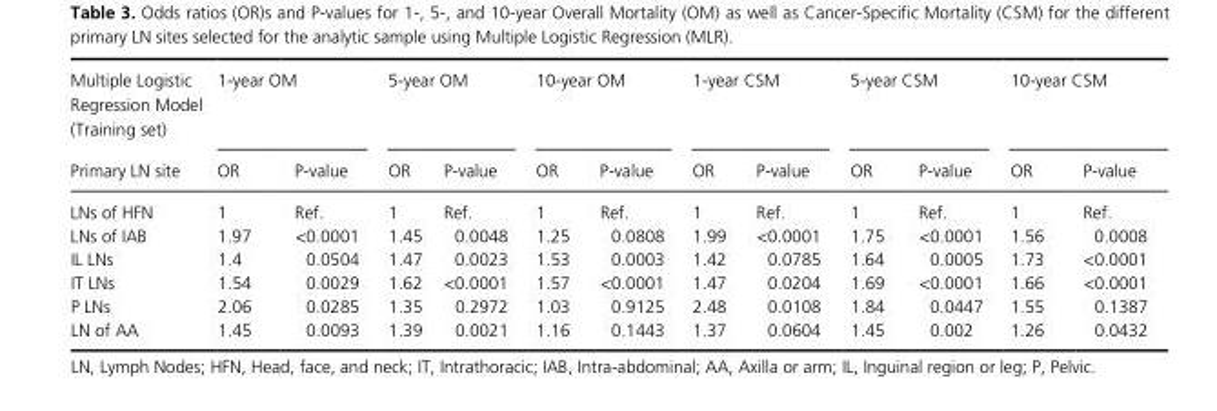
<table><thead><tr><td rowspan="2">Multiple Logistic Regression Model (Training set) Primary LN site</td><td colspan="2">1- year OM</td><td colspan="2">5- year OM</td><td colspan="2">10- year OM</td><td colspan="2">1- year CSM</td><td colspan="2">5- year CSM</td><td colspan="2">10- year CSM</td></tr><tr><td>OR</td><td>P- value</td><td>OR</td><td>P- value</td><td>OR</td><td>P- value</td><td>OR</td><td>P- value</td><td>OR</td><td>P- value</td><td>OR</td><td>P- value</td></tr></thead><tbody><tr><td>LNs of HFN</td><td>1</td><td>Ref.</td><td>1</td><td>Ref.</td><td>1</td><td>Ref.</td><td>1</td><td>Ref.</td><td>1</td><td>Ref.</td><td>1</td><td>Ref.</td></tr><tr><td>LNs of IAB</td><td>1.97</td><td>&lt;0.0001</td><td>1.45</td><td>0.0048</td><td>1.25</td><td>0.0808</td><td>1.99</td><td>&lt;0.0001</td><td>1.75</td><td>&lt;0.0001</td><td>1.56</td><td>0.0008</td></tr><tr><td>IL LNs</td><td>1.4</td><td>0.0504</td><td>1.47</td><td>0.0023</td><td>1.53</td><td>0.0003</td><td>1.42</td><td>0.0785</td><td>1.64</td><td>0.0005</td><td>1.73</td><td>&lt;0.0001</td></tr><tr><td>IT LNs</td><td>1.54</td><td>0.0029</td><td>1.62</td><td>&lt;0.0001</td><td>1.57</td><td>&lt;0.0001</td><td>1.47</td><td>0.0204</td><td>1.69</td><td>&lt;0.0001</td><td>1.66</td><td>&lt;0.0001</td></tr><tr><td>P LNs</td><td>2.06</td><td>0.0285</td><td>1.35</td><td>0.2972</td><td>1.03</td><td>0.9125</td><td>2.48</td><td>0.0108</td><td>1.84</td><td>0.0447</td><td>1.55</td><td>0.1387</td></tr><tr><td>LN of AA</td><td>1.45</td><td>0.0093</td><td>1.39</td><td>0.0021</td><td>1.16</td><td>0.1443</td><td>1.37</td><td>0.0604</td><td>1.45</td><td>0.002</td><td>1.26</td><td>0.0432</td></tr></tbody></table>